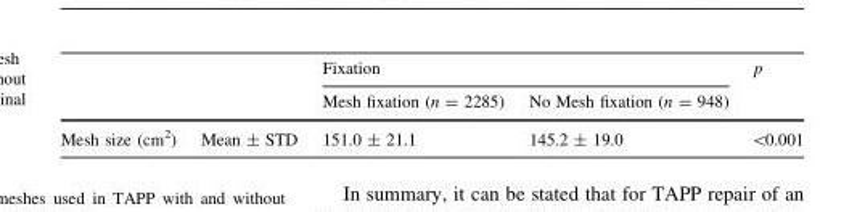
<table><thead><tr><td rowspan="2"></td><td rowspan="2"></td><td colspan="2">Fixation</td><td rowspan="2">p</td></tr><tr><td>Mesh fixation (n = 2285)</td><td>No Mesh fixation (n = 948)</td></tr></thead><tbody><tr><td>Mesh size (cm<sup>2</sup>)</td><td>Mean ± STD</td><td>151.0 ± 21.1</td><td>145.2 ± 19.0</td><td>&lt;0.001</td></tr></tbody></table>